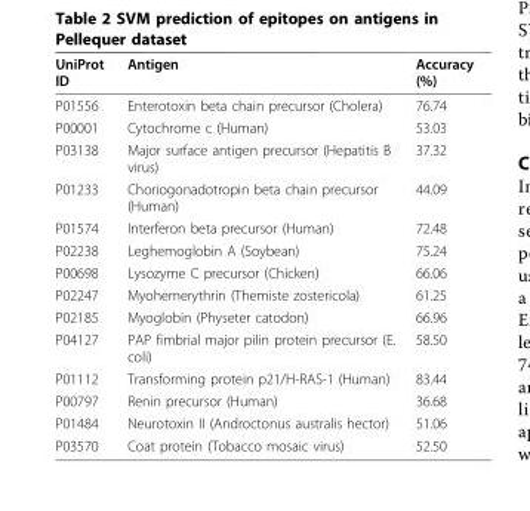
<table><thead><tr><td>UniProt ID</td><td>Antigen</td><td>Accuracy (%)</td></tr></thead><tbody><tr><td>P01556</td><td>Enterotoxin beta chain precursor (Cholera)</td><td>76.74</td></tr><tr><td>P00001</td><td>Cytochrome c (Human)</td><td>53.03</td></tr><tr><td>P03138</td><td>Major surface antigen precursor (Hepatitis B virus)</td><td>37.32</td></tr><tr><td>P01233</td><td>Choriogonadotropin beta chain precursor (Human)</td><td>44.09</td></tr><tr><td>P01574</td><td>Interferon beta precursor (Human)</td><td>72.48</td></tr><tr><td>P02238</td><td>Leghemoglobin A (Soybean)</td><td>75.24</td></tr><tr><td>P00698</td><td>Lysozyme C precursor (Chicken)</td><td>66.06</td></tr><tr><td>P02247</td><td>Myohemerythrin (Themiste zostericola)</td><td>61.25</td></tr><tr><td>P02185</td><td>Myoglobin (Physeter catodon)</td><td>66.96</td></tr><tr><td>P04127</td><td>PAP fimbrial major pilin protein precursor (E. coli)</td><td>58.50</td></tr><tr><td>P01112</td><td>Transforming protein p21/H-RAS-1 (Human)</td><td>83.44</td></tr><tr><td>P00797</td><td>Renin precursor (Human)</td><td>36.68</td></tr><tr><td>P01484</td><td>Neurotoxin II (Androctonus australis hector)</td><td>51.06</td></tr><tr><td>P03570</td><td>Coat protein (Tobacco mosaic virus)</td><td>52.50</td></tr></tbody></table>